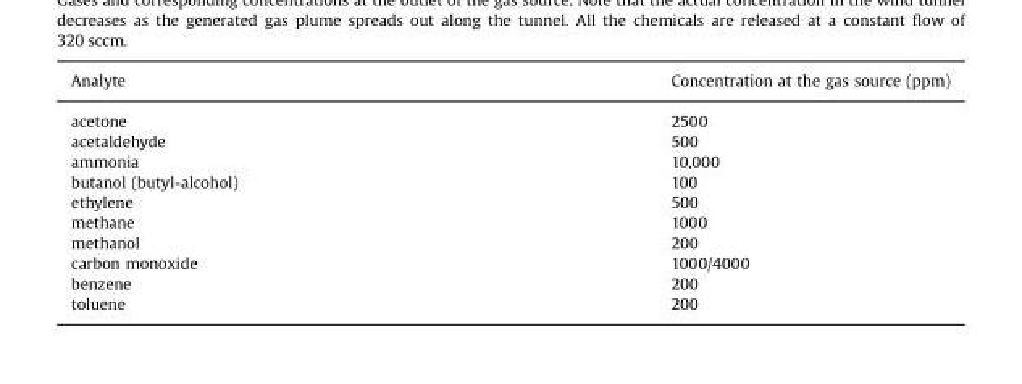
<table><thead><tr><td>Analyte</td><td>Concentration at the gas source (ppm)</td></tr></thead><tbody><tr><td>acetone</td><td>2500</td></tr><tr><td>acetaldehyde</td><td>500</td></tr><tr><td>ammonia</td><td>10,000</td></tr><tr><td>butanol (butyl-alcohol)</td><td>100</td></tr><tr><td>ethylene</td><td>500</td></tr><tr><td>methane</td><td>1000</td></tr><tr><td>methanol</td><td>200</td></tr><tr><td>carbon monoxide</td><td>1000/4000</td></tr><tr><td>benzene</td><td>200</td></tr><tr><td>toluene</td><td>200</td></tr></tbody></table>